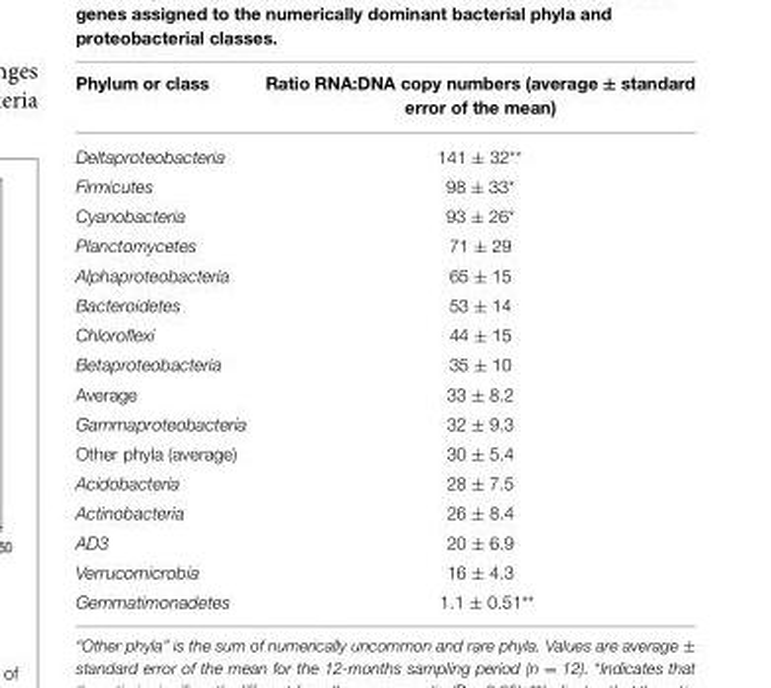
<table><thead><tr><td>Phylum or class</td><td>Ratio RNA:DNA copy numbers (average ± standard error of the mean)</td></tr></thead><tbody><tr><td>Deltaproteobacteria</td><td>141 ± 32**</td></tr><tr><td>Firmicutes</td><td>98 ± 33*</td></tr><tr><td>Cyanobacteria</td><td>93 ± 26*</td></tr><tr><td>Planctomycetes</td><td>71 ± 29</td></tr><tr><td>Alphaproteobacteria</td><td>65 ± 15</td></tr><tr><td>Bacteroidetes</td><td>53 ± 14</td></tr><tr><td>Chloroflexi</td><td>44 ± 15</td></tr><tr><td>Betaproteobacteria</td><td>35 ± 10</td></tr><tr><td>Average</td><td>33 ± 8.2</td></tr><tr><td>Gammaproteobacteria</td><td>32 ± 9.3</td></tr><tr><td>Other phyla (average)</td><td>30 ± 5.4</td></tr><tr><td>Acidobacteria</td><td>28 ± 7.5</td></tr><tr><td>Actinobacteria</td><td>26 ± 8.4</td></tr><tr><td>AD3</td><td>20 ± 6.9</td></tr><tr><td>Verrucomicrobia</td><td>16 ± 4.3</td></tr><tr><td>Gemmatimonadetes</td><td>1.1 ± 0.51**</td></tr></tbody></table>